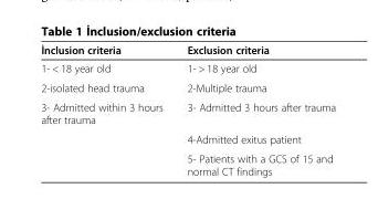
<table><thead><tr><td>İnclusion criteria</td><td>Exclusion criteria</td></tr></thead><tbody><tr><td>1- &lt; 18 year old</td><td>1- &gt; 18 year old</td></tr><tr><td>2-isolated head trauma</td><td>2-Multiple trauma</td></tr><tr><td rowspan="3">3- Admitted within 3 hours after trauma</td><td>3- Admitted 3 hours after trauma</td></tr><tr><td>4-Admitted exitus patient</td></tr><tr><td>5- Patients with a GCS of 15 and normal CT findings</td></tr></tbody></table>